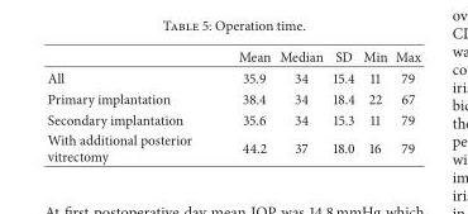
<table><thead><tr><td></td><td>Mean</td><td>Median</td><td>SD</td><td>Min</td><td>Max</td></tr></thead><tbody><tr><td>All</td><td>35.9</td><td>34</td><td>15.4</td><td>11</td><td>79</td></tr><tr><td>Primary implantation</td><td>38.4</td><td>34</td><td>18.4</td><td>22</td><td>67</td></tr><tr><td>Secondary implantation</td><td>35.6</td><td>34</td><td>15.3</td><td>11</td><td>79</td></tr><tr><td>With additional posterior vitrectomy</td><td>44.2</td><td>37</td><td>18.0</td><td>16</td><td>79</td></tr></tbody></table>